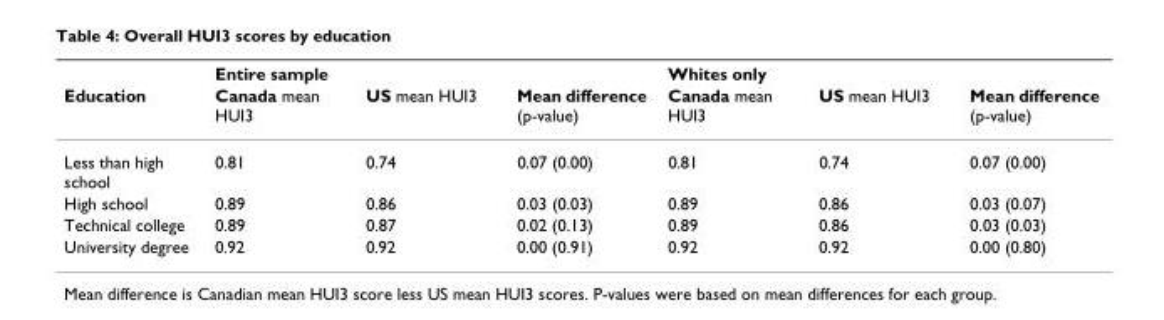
<table><thead><tr><td rowspan="2">Education</td><td rowspan="2">Entire sample Canada mean HUI3</td><td rowspan="2">US mean HUI3</td><td rowspan="2">Mean difference (p-value)</td><td rowspan="2">Whites only Canada mean HUI3</td><td rowspan="2">US mean HUI3</td><td rowspan="2">Mean difference (p-value)</td></tr><tr></tr></thead><tbody><tr><td>Less than high school</td><td>0.81</td><td>0.74</td><td>0.07 (0.00)</td><td>0.81</td><td>0.74</td><td>0.07 (0.00)</td></tr><tr><td>High school</td><td>0.89</td><td>0.86</td><td>0.03 (0.03)</td><td>0.89</td><td>0.86</td><td>0.03 (0.07)</td></tr><tr><td>Technical college</td><td>0.89</td><td>0.87</td><td>0.02 (0.13)</td><td>0.89</td><td>0.86</td><td>0.03 (0.03)</td></tr><tr><td>University degree</td><td>0.92</td><td>0.92</td><td>0.00 (0.91)</td><td>0.92</td><td>0.92</td><td>0.00 (0.80)</td></tr></tbody></table>